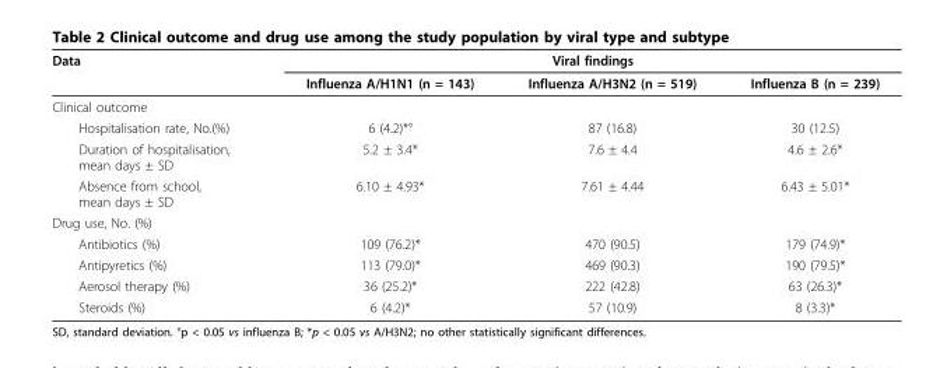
<table><thead><tr><td rowspan="2">Data</td><td colspan="3">Viral findings</td></tr><tr><td>Influenza A/H1N1 (n = 143)</td><td>Influenza A/H3N2 (n = 519)</td><td>Influenza B (n = 239)</td></tr></thead><tbody><tr><td colspan="4">Clinical outcome</td></tr><tr><td>Hospitalisation rate, No.(%)</td><td>6 (4.2)*°</td><td>87 (16.8)</td><td>30 (12.5)</td></tr><tr><td>Duration of hospitalisation, mean days ± SD</td><td>5.2 ± 3.4*</td><td>7.6 ± 4.4</td><td>4.6 ± 2.6*</td></tr><tr><td>Absence from school, mean days ± SD</td><td>6.10 ± 4.93*</td><td>7.61 ± 4.44</td><td>6.43 ± 5.01*</td></tr><tr><td colspan="4">Drug use, No. (%)</td></tr><tr><td>Antibiotics (%)</td><td>109 (76.2)*</td><td>470 (90.5)</td><td>179 (74.9)*</td></tr><tr><td>Antipyretics (%)</td><td>113 (79.0)*</td><td>469 (90.3)</td><td>190 (79.5)*</td></tr><tr><td>Aerosol therapy (%)</td><td>36 (25.2)*</td><td>222 (42.8)</td><td>63 (26.3)*</td></tr><tr><td>Steroids (%)</td><td>6 (4.2)*</td><td>57 (10.9)</td><td>8 (3.3)*</td></tr></tbody></table>